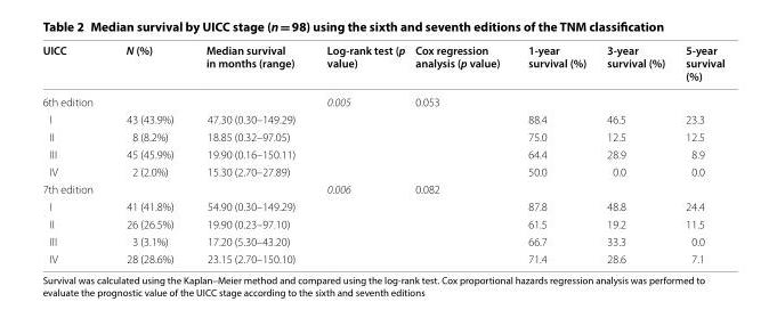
<table><thead><tr><td>UICC</td><td>N (%)</td><td>Median survival in months (range)</td><td>Log-rank test (p value)</td><td>Cox regression analysis (p value)</td><td>1-year survival (%)</td><td>3-year survival (%)</td><td>5-year survival (%)</td></tr></thead><tbody><tr><td>6th edition</td><td></td><td></td><td>0.005</td><td>0.053</td><td></td><td></td><td></td></tr><tr><td>I</td><td>43 (43.9%)</td><td>47.30 (0.30–149.29)</td><td></td><td></td><td>88.4</td><td>46.5</td><td>23.3</td></tr><tr><td>II</td><td>8 (8.2%)</td><td>18.85 (0.32–97.05)</td><td></td><td></td><td>75.0</td><td>12.5</td><td>12.5</td></tr><tr><td>III</td><td>45 (45.9%)</td><td>19.90 (0.16–150.11)</td><td></td><td></td><td>64.4</td><td>28.9</td><td>8.9</td></tr><tr><td>IV</td><td>2 (2.0%)</td><td>15.30 (2.70–27.89)</td><td></td><td></td><td>50.0</td><td>0.0</td><td>0.0</td></tr><tr><td>7th edition</td><td></td><td></td><td>0.006</td><td>0.082</td><td></td><td></td><td></td></tr><tr><td>I</td><td>41 (41.8%)</td><td>54.90 (0.30–149.29)</td><td></td><td></td><td>87.8</td><td>48.8</td><td>24.4</td></tr><tr><td>II</td><td>26 (26.5%)</td><td>19.90 (0.23–97.10)</td><td></td><td></td><td>61.5</td><td>19.2</td><td>11.5</td></tr><tr><td>III</td><td>3 (3.1%)</td><td>17.20 (5.30–43.20)</td><td></td><td></td><td>66.7</td><td>33.3</td><td>0.0</td></tr><tr><td>IV</td><td>28 (28.6%)</td><td>23.15 (2.70–150.10)</td><td></td><td></td><td>71.4</td><td>28.6</td><td>7.1</td></tr></tbody></table>